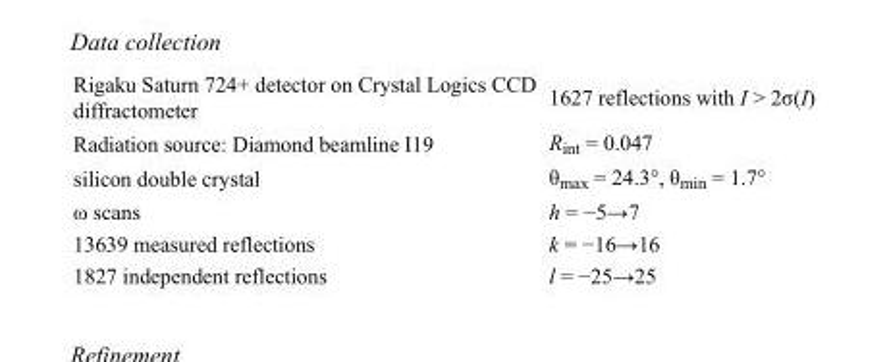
<table><tbody><tr><td>Rigaku Saturn 724+ detector on Crystal Logics CCD diffractometer</td><td>1627 reflections with I &gt; 2σ(I)</td></tr><tr><td>Radiation source: Diamond beamline I19</td><td>R<sub>int</sub> = 0.047</td></tr><tr><td>silicon double crystal</td><td>θ<sub>max</sub> = 24.3°, θ<sub>min</sub> = 1.7°</td></tr><tr><td>ω scans</td><td>h = −5→7</td></tr><tr><td>13639 measured reflections</td><td>k = −16→16</td></tr><tr><td>1827 independent reflections</td><td>l = −25→25</td></tr></tbody></table>